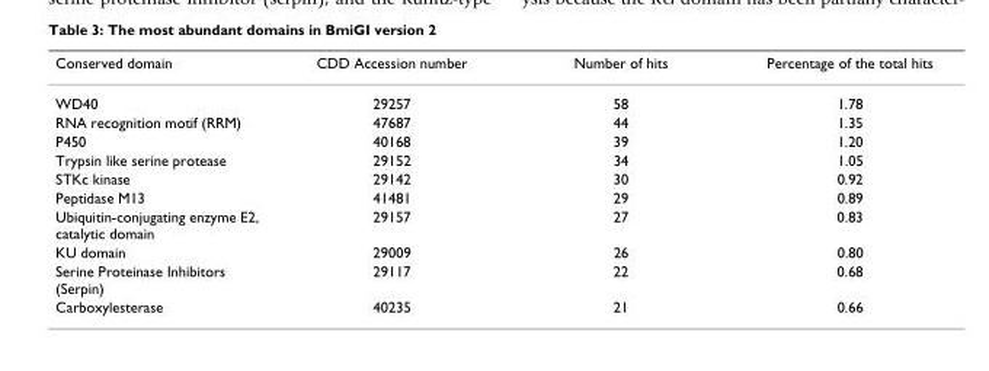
<table><thead><tr><td>Conserved domain</td><td>CDD Accession number</td><td>Number of hits</td><td>Percentage of the total hits</td></tr></thead><tbody><tr><td>WD40</td><td>29257</td><td>58</td><td>1.78</td></tr><tr><td>RNA recognition motif (RRM)</td><td>47687</td><td>44</td><td>1.35</td></tr><tr><td>P450</td><td>40168</td><td>39</td><td>1.20</td></tr><tr><td>Trypsin like serine protease</td><td>29152</td><td>34</td><td>1.05</td></tr><tr><td>STKc kinase</td><td>29142</td><td>30</td><td>0.92</td></tr><tr><td>Peptidase M13</td><td>41481</td><td>29</td><td>0.89</td></tr><tr><td>Ubiquitin-conjugating enzyme E2, catalytic domain</td><td>29157</td><td>27</td><td>0.83</td></tr><tr><td>KU domain</td><td>29009</td><td>26</td><td>0.80</td></tr><tr><td>Serine Proteinase Inhibitors (Serpin)</td><td>29117</td><td>22</td><td>0.68</td></tr><tr><td>Carboxylesterase</td><td>40235</td><td>21</td><td>0.66</td></tr></tbody></table>